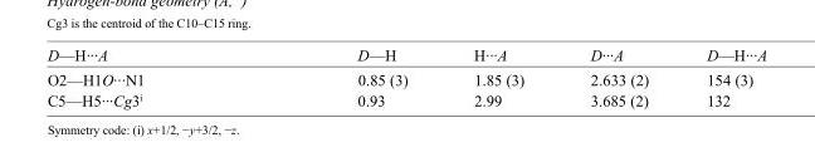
<table><tbody><tr><td>D—H···A</td><td>D—H</td><td>H···A</td><td>D···A</td><td>D—H···A</td></tr><tr><td>O2—H1O···N1</td><td>0.85 (3)</td><td>1.85 (3)</td><td>2.633 (2)</td><td>154 (3)</td></tr><tr><td>C5—H5···Cg3<sup>i</sup></td><td>0.93</td><td>2.99</td><td>3.685 (2)</td><td>132</td></tr></tbody></table>